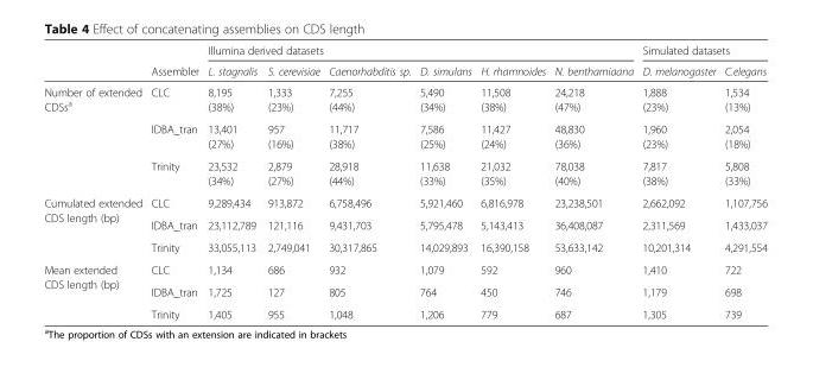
<table><thead><tr><td rowspan="2"></td><td rowspan="2">Assembler</td><td colspan="6">Illumina derived datasets</td><td colspan="2">Simulated datasets</td></tr><tr><td>L. stagnalis</td><td>S. cerevisiae</td><td>Caenorhabditis sp.</td><td>D. simulans</td><td>H. rhamnoides</td><td>N. benthamiaana</td><td>D. melanogaster</td><td>C.elegans</td></tr></thead><tbody><tr><td rowspan="3">Number of extended CDSs<sup>a</sup></td><td>CLC</td><td>8,195 (38%)</td><td>1,333 (23%)</td><td>7,255 (44%)</td><td>5,490 (34%)</td><td>11,508 (38%)</td><td>24,218 (47%)</td><td>1,888 (23%)</td><td>1,534 (13%)</td></tr><tr><td>IDBA_tran</td><td>13,401 (27%)</td><td>957 (16%)</td><td>11,717 (38%)</td><td>7,586 (25%)</td><td>11,427 (24%)</td><td>48,830 (36%)</td><td>1,960 (23%)</td><td>2,054 (18%)</td></tr><tr><td>Trinity</td><td>23,532 (34%)</td><td>2,879 (27%)</td><td>28,918 (44%)</td><td>11,638 (33%)</td><td>21,032 (35%)</td><td>78,038 (40%)</td><td>7,817 (38%)</td><td>5,808 (33%)</td></tr><tr><td rowspan="3">Cumulated extended CDS length (bp)</td><td>CLC</td><td>9,289,434</td><td>913,872</td><td>6,758,496</td><td>5,921,460</td><td>6,816,978</td><td>23,238,501</td><td>2,662,092</td><td>1,107,756</td></tr><tr><td>IDBA_tran</td><td>23,112,789</td><td>121,116</td><td>9,431,703</td><td>5,795,478</td><td>5,143,413</td><td>36,408,087</td><td>2,311,569</td><td>1,433,037</td></tr><tr><td>Trinity</td><td>33,055,113</td><td>2,749,041</td><td>30,317,865</td><td>14,029,893</td><td>16,390,158</td><td>53,633,142</td><td>10,201,314</td><td>4,291,554</td></tr><tr><td rowspan="3">Mean extended CDS length (bp)</td><td>CLC</td><td>1,134</td><td>686</td><td>932</td><td>1,079</td><td>592</td><td>960</td><td>1,410</td><td>722</td></tr><tr><td>IDBA_tran</td><td>1,725</td><td>127</td><td>805</td><td>764</td><td>450</td><td>746</td><td>1,179</td><td>698</td></tr><tr><td>Trinity</td><td>1,405</td><td>955</td><td>1,048</td><td>1,206</td><td>779</td><td>687</td><td>1,305</td><td>739</td></tr></tbody></table>